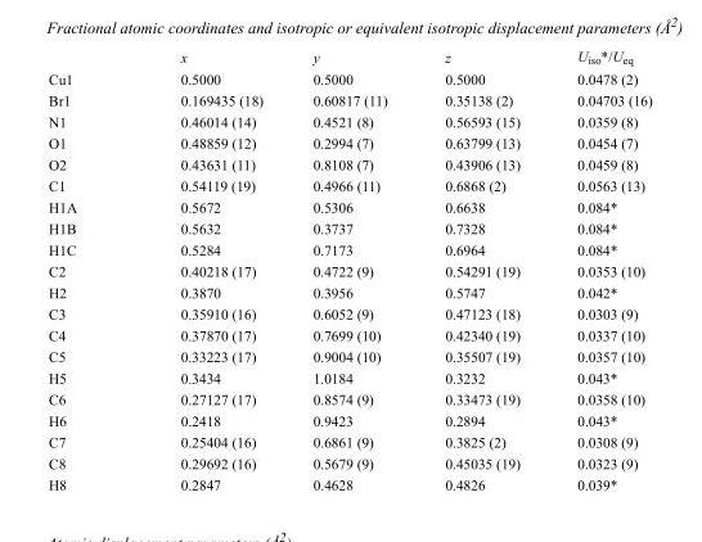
<table><thead><tr><td></td><td>x</td><td>y</td><td>z</td><td>U<sub>iso</sub>*/U<sub>eq</sub></td></tr></thead><tbody><tr><td>Cu1</td><td>0.5000</td><td>0.5000</td><td>0.5000</td><td>0.0478 (2)</td></tr><tr><td>Br1</td><td>0.169435 (18)</td><td>0.60817 (11)</td><td>0.35138 (2)</td><td>0.04703 (16)</td></tr><tr><td>N1</td><td>0.46014 (14)</td><td>0.4521 (8)</td><td>0.56593 (15)</td><td>0.0359 (8)</td></tr><tr><td>O1</td><td>0.48859 (12)</td><td>0.2994 (7)</td><td>0.63799 (13)</td><td>0.0454 (7)</td></tr><tr><td>O2</td><td>0.43631 (11)</td><td>0.8108 (7)</td><td>0.43906 (13)</td><td>0.0459 (8)</td></tr><tr><td>C1</td><td>0.54119 (19)</td><td>0.4966 (11)</td><td>0.6868 (2)</td><td>0.0563 (13)</td></tr><tr><td>H1A</td><td>0.5672</td><td>0.5306</td><td>0.6638</td><td>0.084*</td></tr><tr><td>H1B</td><td>0.5632</td><td>0.3737</td><td>0.7328</td><td>0.084*</td></tr><tr><td>H1C</td><td>0.5284</td><td>0.7173</td><td>0.6964</td><td>0.084*</td></tr><tr><td>C2</td><td>0.40218 (17)</td><td>0.4722 (9)</td><td>0.54291 (19)</td><td>0.0353 (10)</td></tr><tr><td>H2</td><td>0.3870</td><td>0.3956</td><td>0.5747</td><td>0.042*</td></tr><tr><td>C3</td><td>0.35910 (16)</td><td>0.6052 (9)</td><td>0.47123 (18)</td><td>0.0303 (9)</td></tr><tr><td>C4</td><td>0.37870 (17)</td><td>0.7699 (10)</td><td>0.42340 (19)</td><td>0.0337 (10)</td></tr><tr><td>C5</td><td>0.33223 (17)</td><td>0.9004 (10)</td><td>0.35507 (19)</td><td>0.0357 (10)</td></tr><tr><td>H5</td><td>0.3434</td><td>1.0184</td><td>0.3232</td><td>0.043*</td></tr><tr><td>C6</td><td>0.27127 (17)</td><td>0.8574 (9)</td><td>0.33473 (19)</td><td>0.0358 (10)</td></tr><tr><td>H6</td><td>0.2418</td><td>0.9423</td><td>0.2894</td><td>0.043*</td></tr><tr><td>C7</td><td>0.25404 (16)</td><td>0.6861 (9)</td><td>0.3825 (2)</td><td>0.0308 (9)</td></tr><tr><td>C8</td><td>0.29692 (16)</td><td>0.5679 (9)</td><td>0.45035 (19)</td><td>0.0323 (9)</td></tr><tr><td>H8</td><td>0.2847</td><td>0.4628</td><td>0.4826</td><td>0.039*</td></tr></tbody></table>